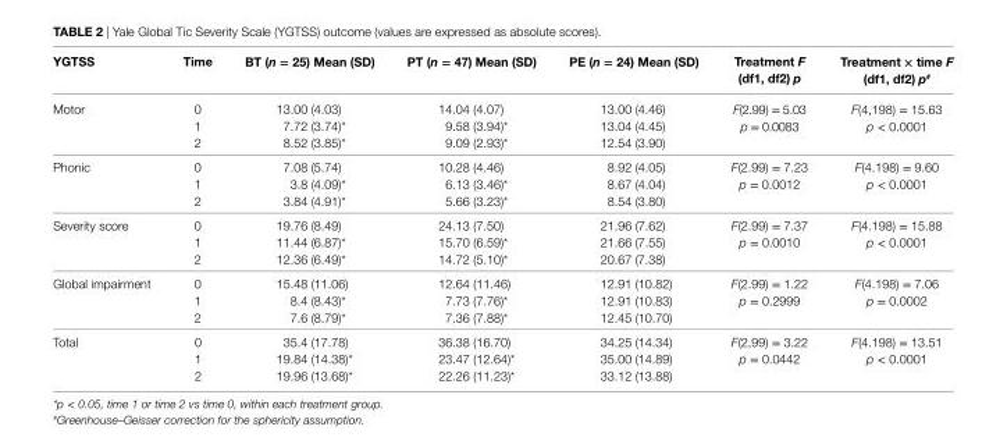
<table><thead><tr><td>YgTss</td><td>Time</td><td>BT (n = 25) Mean (sD)</td><td>PT (n = 47) Mean (sD)</td><td>Pe (n = 24) Mean (sD)</td><td>Treatment F (df1, df2) p</td><td>Treatment × time F (df1, df2) p<sup>#</sup></td></tr></thead><tbody><tr><td>Motor</td><td>0 1 2</td><td>13.00 (4.03) 7.72 (3.74)* 8.52 (3.85)*</td><td>14.04 (4.07) 9.58 (3.94)* 9.09 (2.93)*</td><td>13.00 (4.46) 13.04 (4.45) 12.54 (3.90)</td><td>F(2.99) = 5.03 p = 0.0083</td><td>F(4,198) = 15.63 p &lt; 0.0001</td></tr><tr><td>Phonic</td><td>0 1 2</td><td>7.08 (5.74) 3.8 (4.09)* 3.84 (4.91)*</td><td>10.28 (4.46) 6.13 (3.46)* 5.66 (3.23)*</td><td>8.92 (4.05) 8.67 (4.04) 8.54 (3.80)</td><td>F(2.99) = 7.23 p = 0.0012</td><td>F(4.198) = 9.60 p &lt; 0.0001</td></tr><tr><td>Severity score</td><td>0 1 2</td><td>19.76 (8.49) 11.44 (6.87)* 12.36 (6.49)*</td><td>24.13 (7.50) 15.70 (6.59)* 14.72 (5.10)*</td><td>21.96 (7.62) 21.66 (7.55) 20.67 (7.38)</td><td>F(2.99) = 7.37 p = 0.0010</td><td>F(4.198) = 15.88 p &lt; 0.0001</td></tr><tr><td>Global impairment</td><td>0 1 2</td><td>15.48 (11.06) 8.4 (8.43)* 7.6 (8.79)*</td><td>12.64 (11.46) 7.73 (7.76)* 7.36 (7.88)*</td><td>12.91 (10.82) 12.91 (10.83) 12.45 (10.70)</td><td>F(2.99) = 1.22 p = 0.2999</td><td>F(4.198) = 7.06 p = 0.0002</td></tr><tr><td>Total</td><td>0 1 2</td><td>35.4 (17.78) 19.84 (14.38)* 19.96 (13.68)*</td><td>36.38 (16.70) 23.47 (12.64)* 22.26 (11.23)*</td><td>34.25 (14.34) 35.00 (14.89) 33.12 (13.88)</td><td>F(2,99) = 3.22 p = 0.0442</td><td>F(4.198) = 13.51 p &lt; 0.0001</td></tr></tbody></table>